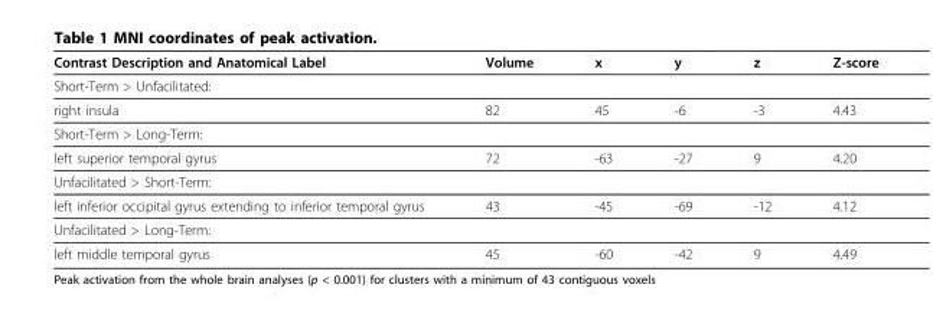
<table><thead><tr><td>Contrast Description and Anatomical Label</td><td>Volume</td><td>x</td><td>y</td><td>z</td><td>Z-score</td></tr></thead><tbody><tr><td colspan="6">Short-Term &gt; Unfacilitated:</td></tr><tr><td>right insula</td><td>82</td><td>45</td><td>-6</td><td>-3</td><td>4.43</td></tr><tr><td colspan="6">Short-Term &gt; Long-Term:</td></tr><tr><td>left superior temporal gyrus</td><td>72</td><td>-63</td><td>-27</td><td>9</td><td>4.20</td></tr><tr><td colspan="6">Unfacilitated &gt; Short-Term:</td></tr><tr><td>left inferior occipital gyrus extending to inferior temporal gyrus</td><td>43</td><td>-45</td><td>-69</td><td>-12</td><td>4.12</td></tr><tr><td colspan="6">Unfacilitated &gt; Long-Term:</td></tr><tr><td>left middle temporal gyrus</td><td>45</td><td>-60</td><td>-42</td><td>9</td><td>4.49</td></tr></tbody></table>